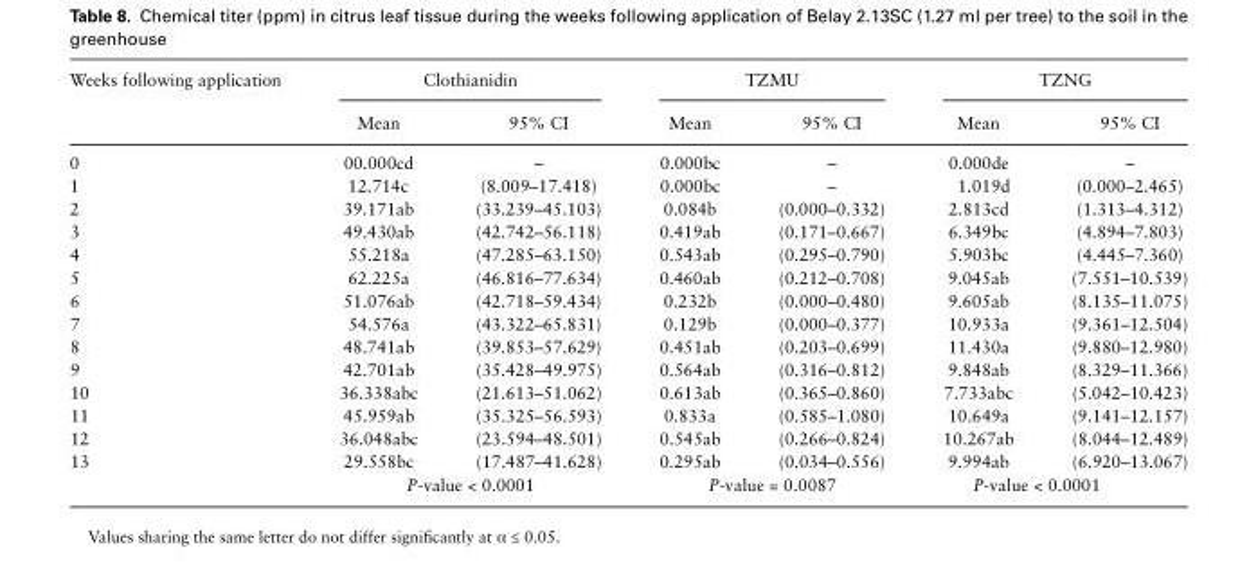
<table><thead><tr><td rowspan="2">Weeks following application</td><td colspan="2">Clothianidin</td><td colspan="2">TZMU</td><td colspan="2">TZNG</td></tr><tr><td>Mean</td><td>95% CI</td><td>Mean</td><td>95% CI</td><td>Mean</td><td>95% CI</td></tr></thead><tbody><tr><td>0</td><td>00.000cd</td><td>–</td><td>0.000bc</td><td>–</td><td>0.000de</td><td>–</td></tr><tr><td>1</td><td>12.714c</td><td>(8.009–17.418)</td><td>0.000bc</td><td>–</td><td>1.019d</td><td>(0.000–2.465)</td></tr><tr><td>2</td><td>39.171ab</td><td>(33.239–45.103)</td><td>0.084b</td><td>(0.000–0.332)</td><td>2.813cd</td><td>(1.313–4.312)</td></tr><tr><td>3</td><td>49.430ab</td><td>(42.742–56.118)</td><td>0.419ab</td><td>(0.171–0.667)</td><td>6.349bc</td><td>(4.894–7.803)</td></tr><tr><td>4</td><td>55.218a</td><td>(47.285–63.150)</td><td>0.543ab</td><td>(0.295–0.790)</td><td>5.903bc</td><td>(4.445–7.360)</td></tr><tr><td>5</td><td>62.225a</td><td>(46.816–77.634)</td><td>0.460ab</td><td>(0.212–0.708)</td><td>9.045ab</td><td>(7.551–10.539)</td></tr><tr><td>6</td><td>51.076ab</td><td>(42.718–59.434)</td><td>0.232b</td><td>(0.000–0.480)</td><td>9.605ab</td><td>(8.135–11.075)</td></tr><tr><td>7</td><td>54.576a</td><td>(43.322–65.831)</td><td>0.129b</td><td>(0.000–0.377)</td><td>10.933a</td><td>(9.361–12.504)</td></tr><tr><td>8</td><td>48.741ab</td><td>(39.853–57.629)</td><td>0.451ab</td><td>(0.203–0.699)</td><td>11.430a</td><td>(9.880–12.980)</td></tr><tr><td>9</td><td>42.701ab</td><td>(35.428–49.975)</td><td>0.564ab</td><td>(0.316–0.812)</td><td>9.848ab</td><td>(8.329–11.366)</td></tr><tr><td>10</td><td>36.338abc</td><td>(21.613–51.062)</td><td>0.613ab</td><td>(0.365–0.860)</td><td>7.733abc</td><td>(5.042–10.423)</td></tr><tr><td>11</td><td>45.959ab</td><td>(35.325–56.593)</td><td>0.833a</td><td>(0.585–1.080)</td><td>10.649a</td><td>(9.141–12.157)</td></tr><tr><td>12</td><td>36.048abc</td><td>(23.594–48.501)</td><td>0.545ab</td><td>(0.266–0.824)</td><td>10.267ab</td><td>(8.044–12.489)</td></tr><tr><td rowspan="2">13</td><td>29.558bc</td><td>(17.487–41.628)</td><td>0.295ab</td><td>(0.034–0.556)</td><td>9.994ab</td><td>(6.920–13.067)</td></tr><tr><td colspan="2">P-value &lt; 0.0001</td><td colspan="2">P-value = 0.0087</td><td colspan="2">P-value &lt; 0.0001</td></tr></tbody></table>